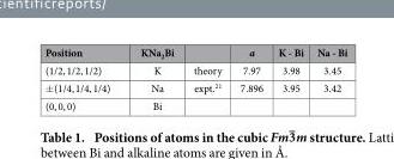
<table><thead><tr><td>Position</td><td>KNa<sub>2</sub>Bi</td><td></td><td>a</td><td>K - Bi</td><td>Na - Bi</td></tr></thead><tbody><tr><td>(1/2, 1/2, 1/2)</td><td>K</td><td>theory</td><td>7.97</td><td>3.98</td><td>3.45</td></tr><tr><td>± (1/4, 1/4, 1/4)</td><td>Na</td><td>expt.<sup>21</sup></td><td>7.896</td><td>3.95</td><td>3.42</td></tr><tr><td>(0, 0, 0)</td><td>Bi</td><td></td><td></td><td></td><td></td></tr></tbody></table>